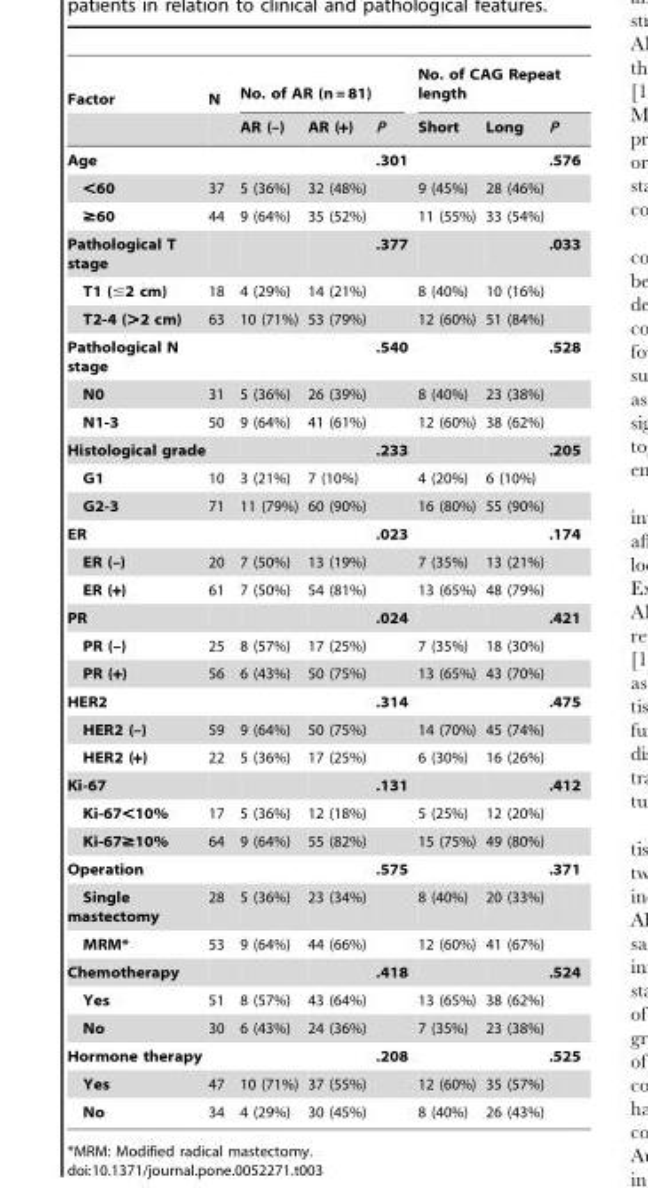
<table><thead><tr><td rowspan="2">Factor</td><td rowspan="2">N</td><td colspan="3">No. of AR (n = 81)</td><td colspan="3">No. of CAG Repeat length</td></tr><tr><td>AR (–)</td><td>AR (+)</td><td>P</td><td>Short</td><td>Long</td><td>P</td></tr></thead><tbody><tr><td>Age</td><td></td><td></td><td></td><td>.301</td><td></td><td></td><td>.576</td></tr><tr><td>&lt;60</td><td>37</td><td>5 (36%)</td><td>32 (48%)</td><td></td><td>9 (45%)</td><td>28 (46%)</td><td></td></tr><tr><td>≥60</td><td>44</td><td>9 (64%)</td><td>35 (52%)</td><td></td><td>11 (55%)</td><td>33 (54%)</td><td></td></tr><tr><td>Pathological T stage</td><td></td><td></td><td></td><td>.377</td><td></td><td></td><td>.033</td></tr><tr><td>T1 (≤2 cm)</td><td>18</td><td>4 (29%)</td><td>14 (21%)</td><td></td><td>8 (40%)</td><td>10 (16%)</td><td></td></tr><tr><td>T2-4 (&gt;2 cm)</td><td>63</td><td>10 (71%)</td><td>53 (79%)</td><td></td><td>12 (60%)</td><td>51 (84%)</td><td></td></tr><tr><td>Pathological N stage</td><td></td><td></td><td></td><td>.540</td><td></td><td></td><td>.528</td></tr><tr><td>N0</td><td>31</td><td>5 (36%)</td><td>26 (39%)</td><td></td><td>8 (40%)</td><td>23 (38%)</td><td></td></tr><tr><td>N1-3</td><td>50</td><td>9 (64%)</td><td>41 (61%)</td><td></td><td>12 (60%)</td><td>38 (62%)</td><td></td></tr><tr><td>Histological grade</td><td></td><td></td><td></td><td>.233</td><td></td><td></td><td>.205</td></tr><tr><td>G1</td><td>10</td><td>3 (21%)</td><td>7 (10%)</td><td></td><td>4 (20%)</td><td>6 (10%)</td><td></td></tr><tr><td>G2-3</td><td>71</td><td>11 (79%)</td><td>60 (90%)</td><td></td><td>16 (80%)</td><td>55 (90%)</td><td></td></tr><tr><td>ER</td><td></td><td></td><td></td><td>.023</td><td></td><td></td><td>.174</td></tr><tr><td>ER (–)</td><td>20</td><td>7 (50%)</td><td>13 (19%)</td><td></td><td>7 (35%)</td><td>13 (21%)</td><td></td></tr><tr><td>ER (+)</td><td>61</td><td>7 (50%)</td><td>54 (81%)</td><td></td><td>13 (65%)</td><td>48 (79%)</td><td></td></tr><tr><td>PR</td><td></td><td></td><td></td><td>.024</td><td></td><td></td><td>.421</td></tr><tr><td>PR (–)</td><td>25</td><td>8 (57%)</td><td>17 (25%)</td><td></td><td>7 (35%)</td><td>18 (30%)</td><td></td></tr><tr><td>PR (+)</td><td>56</td><td>6 (43%)</td><td>50 (75%)</td><td></td><td>13 (65%)</td><td>43 (70%)</td><td></td></tr><tr><td>HER2</td><td></td><td></td><td></td><td>.314</td><td></td><td></td><td>.475</td></tr><tr><td>HER2 (–)</td><td>59</td><td>9 (64%)</td><td>50 (75%)</td><td></td><td>14 (70%)</td><td>45 (74%)</td><td></td></tr><tr><td>HER2 (+)</td><td>22</td><td>5 (36%)</td><td>17 (25%)</td><td></td><td>6 (30%)</td><td>16 (26%)</td><td></td></tr><tr><td>Ki-67</td><td></td><td></td><td></td><td>.131</td><td></td><td></td><td>.412</td></tr><tr><td>Ki-67&lt;10%</td><td>17</td><td>5 (36%)</td><td>12 (18%)</td><td></td><td>5 (25%)</td><td>12 (20%)</td><td></td></tr><tr><td>Ki-67≥10%</td><td>64</td><td>9 (64%)</td><td>55 (82%)</td><td></td><td>15 (75%)</td><td>49 (80%)</td><td></td></tr><tr><td>Operation</td><td></td><td></td><td></td><td>.575</td><td></td><td></td><td>.371</td></tr><tr><td>Single mastectomy</td><td>28</td><td>5 (36%)</td><td>23 (34%)</td><td></td><td>8 (40%)</td><td>20 (33%)</td><td></td></tr><tr><td>MRM*</td><td>53</td><td>9 (64%)</td><td>44 (66%)</td><td></td><td>12 (60%)</td><td>41 (67%)</td><td></td></tr><tr><td>Chemotherapy</td><td></td><td></td><td></td><td>.418</td><td></td><td></td><td>.524</td></tr><tr><td>Yes</td><td>51</td><td>8 (57%)</td><td>43 (64%)</td><td></td><td>13 (65%)</td><td>38 (62%)</td><td></td></tr><tr><td>No</td><td>30</td><td>6 (43%)</td><td>24 (36%)</td><td></td><td>7 (35%)</td><td>23 (38%)</td><td></td></tr><tr><td>Hormone therapy</td><td></td><td></td><td></td><td>.208</td><td></td><td></td><td>.525</td></tr><tr><td>Yes</td><td>47</td><td>10 (71%)</td><td>37 (55%)</td><td></td><td>12 (60%)</td><td>35 (57%)</td><td></td></tr><tr><td>No</td><td>34</td><td>4 (29%)</td><td>30 (45%)</td><td></td><td>8 (40%)</td><td>26 (43%)</td><td></td></tr></tbody></table>